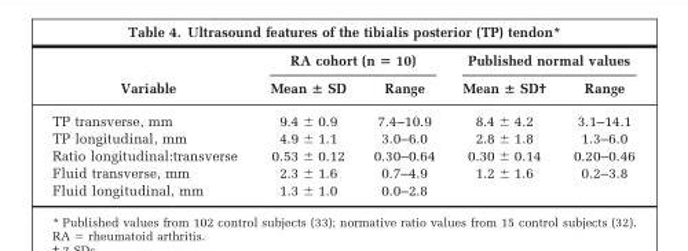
<table><thead><tr><td rowspan="2">Variable</td><td colspan="2">RA cohort (n = 10)</td><td colspan="2">Published normal values</td></tr><tr><td>Mean ± SD</td><td>Range</td><td>Mean ± SD†</td><td>Range</td></tr></thead><tbody><tr><td>TP transverse, mm</td><td>9.4 ± 0.9</td><td>7.4–10.9</td><td>8.4 ± 4.2</td><td>3.1–14.1</td></tr><tr><td>TP longitudinal, mm</td><td>4.9 ± 1.1</td><td>3.0–6.0</td><td>2.8 ± 1.8</td><td>1.3–6.0</td></tr><tr><td>Ratio longitudinal:transverse</td><td>0.53 ± 0.12</td><td>0.30–0.64</td><td>0.30 ± 0.14</td><td>0.20–0.46</td></tr><tr><td>Fluid transverse, mm</td><td>2.3 ± 1.6</td><td>0.7–4.9</td><td>1.2 ± 1.6</td><td>0.2–3.8</td></tr><tr><td>Fluid longitudinal, mm</td><td>1.3 ± 1.0</td><td>0.0–2.8</td><td></td><td></td></tr></tbody></table>